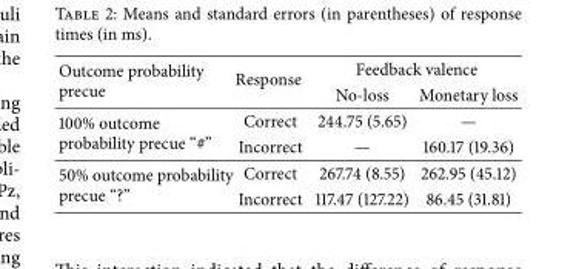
<table><thead><tr><td rowspan="2">Outcome probability precue</td><td rowspan="2">Response</td><td colspan="2">Feedback valence</td></tr><tr><td>No-loss</td><td>Monetary loss</td></tr></thead><tbody><tr><td rowspan="2">100% outcome probability precue “#”</td><td>Correct</td><td>244.75 (5.65)</td><td>—</td></tr><tr><td>Incorrect</td><td>—</td><td>160.17 (19.36)</td></tr><tr><td rowspan="2">50% outcome probability precue “?”</td><td>Correct</td><td>267.74 (8.55)</td><td>262.95 (45.12)</td></tr><tr><td>Incorrect</td><td>117.47 (127.22)</td><td>86.45 (31.81)</td></tr></tbody></table>